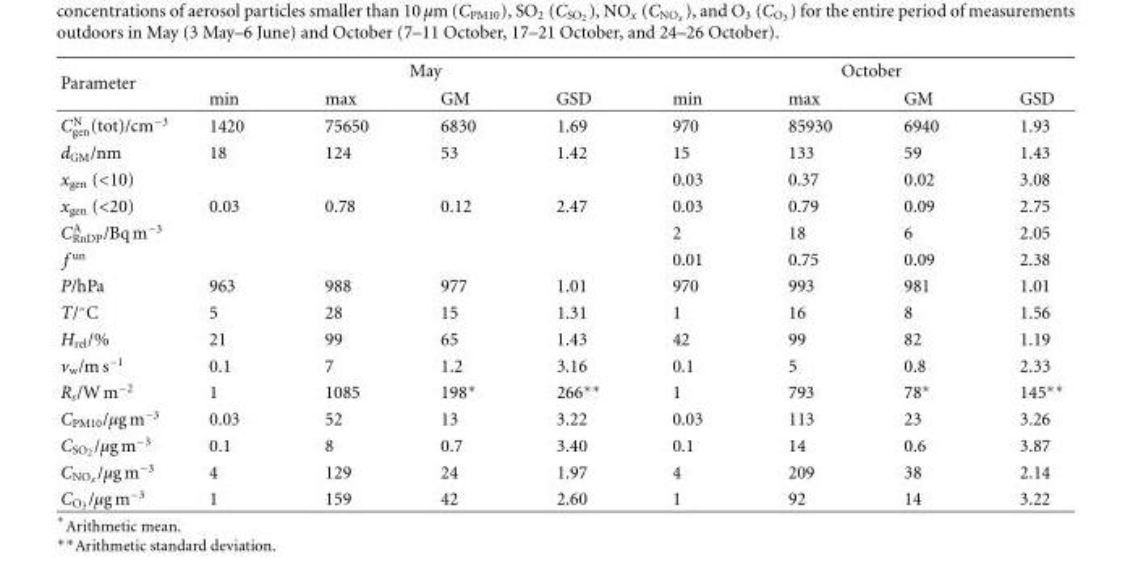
<table><tbody><tr><td rowspan="2">Parameter</td><td colspan="4">May</td><td colspan="4">October</td></tr><tr><td>min</td><td>max</td><td>GM</td><td>GSD</td><td>min</td><td>max</td><td>GM</td><td>GSD</td></tr><tr><td>CN gen(tot)/cm−3</td><td>1420</td><td>75650</td><td>6830</td><td>1.69</td><td>970</td><td>85930</td><td>6940</td><td>1.93</td></tr><tr><td>d<sub>GM</sub>/nm</td><td>18</td><td>124</td><td>53</td><td>1.42</td><td>15</td><td>133</td><td>59</td><td>1.43</td></tr><tr><td>x<sub>gen</sub> (&lt;10)</td><td></td><td></td><td></td><td></td><td>0.03</td><td>0.37</td><td>0.02</td><td>3.08</td></tr><tr><td>x<sub>gen</sub> (&lt;20)</td><td>0.03</td><td>0.78</td><td>0.12</td><td>2.47</td><td>0.03</td><td>0.79</td><td>0.09</td><td>2.75</td></tr><tr><td>CA RnDP/Bq m−3</td><td></td><td></td><td></td><td></td><td>2</td><td>18</td><td>6</td><td>2.05</td></tr><tr><td>f <sup>un</sup></td><td></td><td></td><td></td><td></td><td>0.01</td><td>0.75</td><td>0.09</td><td>2.38</td></tr><tr><td>P/hPa</td><td>963</td><td>988</td><td>977</td><td>1.01</td><td>970</td><td>993</td><td>981</td><td>1.01</td></tr><tr><td>T/◦C</td><td>5</td><td>28</td><td>15</td><td>1.31</td><td>1</td><td>16</td><td>8</td><td>1.56</td></tr><tr><td>H<sub>rel</sub>/%</td><td>21</td><td>99</td><td>65</td><td>1.43</td><td>42</td><td>99</td><td>82</td><td>1.19</td></tr><tr><td>v<sub>w</sub>/m s<sup>−1</sup></td><td>0.1</td><td>7</td><td>1.2</td><td>3.16</td><td>0.1</td><td>5</td><td>0.8</td><td>2.33</td></tr><tr><td>R<sub>s</sub>/W m<sup>−2</sup></td><td>1</td><td>1085</td><td>198∗</td><td>266∗∗</td><td>1</td><td>793</td><td>78∗</td><td>145∗∗</td></tr><tr><td>C<sub>PM10</sub>/μg m<sup>−3</sup></td><td>0.03</td><td>52</td><td>13</td><td>3.22</td><td>0.03</td><td>113</td><td>23</td><td>3.26</td></tr><tr><td>CSO2/μg m−3</td><td>0.1</td><td>8</td><td>0.7</td><td>3.40</td><td>0.1</td><td>14</td><td>0.6</td><td>3.87</td></tr><tr><td>CNOx/μg m−3</td><td>4</td><td>129</td><td>24</td><td>1.97</td><td>4</td><td>209</td><td>38</td><td>2.14</td></tr><tr><td>CO3/μg m−3</td><td>1</td><td>159</td><td>42</td><td>2.60</td><td>1</td><td>92</td><td>14</td><td>3.22</td></tr></tbody></table>